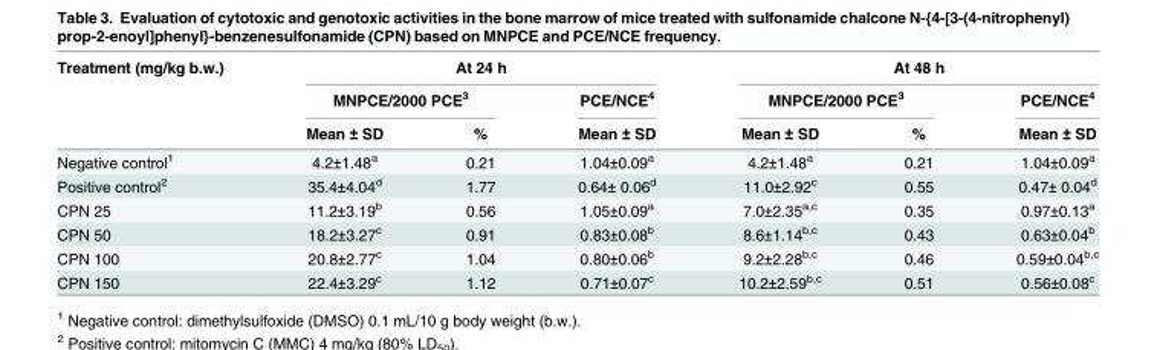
<table><thead><tr><td rowspan="3">Treatment (mg/kg b.w.)</td><td colspan="3">At 24 h</td><td colspan="3">At 48 h</td></tr><tr><td colspan="2">MNPCE/2000 PCE<sup>3</sup></td><td rowspan="2">PCE/NCE<sup>4</sup> Mean ± SD</td><td colspan="2">MNPCE/2000 PCE<sup>3</sup></td><td rowspan="2">PCE/NCE<sup>4</sup> Mean ± SD</td></tr><tr><td>Mean ± SD</td><td>%</td><td>Mean ± SD</td><td>%</td></tr></thead><tbody><tr><td>Negative control<sup>1</sup></td><td>4.2±1.48<sup>a</sup></td><td>0.21</td><td>1.04±0.09<sup>a</sup></td><td>4.2±1.48<sup>a</sup></td><td>0.21</td><td>1.04±0.09<sup>a</sup></td></tr><tr><td>Positive control<sup>2</sup></td><td>35.4±4.04<sup>d</sup></td><td>1.77</td><td>0.64± 0.06<sup>d</sup></td><td>11.0±2.92<sup>c</sup></td><td>0.55</td><td>0.47± 0.04<sup>d</sup></td></tr><tr><td>CPN 25</td><td>11.2±3.19<sup>b</sup></td><td>0.56</td><td>1.05±0.09<sup>a</sup></td><td>7.0±2.35<sup>a,c</sup></td><td>0.35</td><td>0.97±0.13<sup>a</sup></td></tr><tr><td>CPN 50</td><td>18.2±3.27<sup>c</sup></td><td>0.91</td><td>0.83±0.08<sup>b</sup></td><td>8.6±1.14<sup>b,c</sup></td><td>0.43</td><td>0.63±0.04<sup>b</sup></td></tr><tr><td>CPN 100</td><td>20.8±2.77<sup>c</sup></td><td>1.04</td><td>0.80±0.06<sup>b</sup></td><td>9.2±2.28<sup>b,c</sup></td><td>0.46</td><td>0.59±0.04<sup>b,c</sup></td></tr><tr><td>CPN 150</td><td>22.4±3.29<sup>c</sup></td><td>1.12</td><td>0.71±0.07<sup>c</sup></td><td>10.2±2.59<sup>b,c</sup></td><td>0.51</td><td>0.56±0.08<sup>c</sup></td></tr></tbody></table>